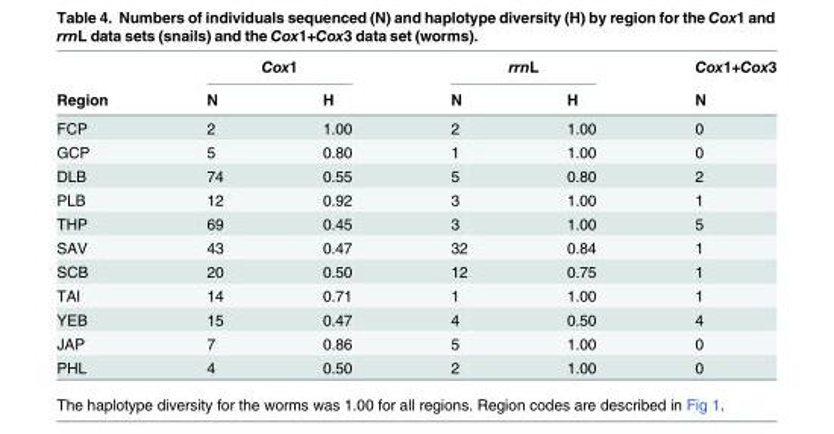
<table><thead><tr><td rowspan="2">Region</td><td colspan="2">Cox1</td><td colspan="2">rrnL</td><td rowspan="2">Cox1+Cox3 N</td></tr><tr><td>N</td><td>H</td><td>N</td><td>H</td></tr></thead><tbody><tr><td>FCP</td><td>2</td><td>1.00</td><td>2</td><td>1.00</td><td>0</td></tr><tr><td>GCP</td><td>5</td><td>0.80</td><td>1</td><td>1.00</td><td>0</td></tr><tr><td>DLB</td><td>74</td><td>0.55</td><td>5</td><td>0.80</td><td>2</td></tr><tr><td>PLB</td><td>12</td><td>0.92</td><td>3</td><td>1.00</td><td>1</td></tr><tr><td>THP</td><td>69</td><td>0.45</td><td>3</td><td>1.00</td><td>5</td></tr><tr><td>SAV</td><td>43</td><td>0.47</td><td>32</td><td>0.84</td><td>1</td></tr><tr><td>SCB</td><td>20</td><td>0.50</td><td>12</td><td>0.75</td><td>1</td></tr><tr><td>TAI</td><td>14</td><td>0.71</td><td>1</td><td>1.00</td><td>1</td></tr><tr><td>YEB</td><td>15</td><td>0.47</td><td>4</td><td>0.50</td><td>4</td></tr><tr><td>JAP</td><td>7</td><td>0.86</td><td>5</td><td>1.00</td><td>0</td></tr><tr><td>PHL</td><td>4</td><td>0.50</td><td>2</td><td>1.00</td><td>0</td></tr></tbody></table>